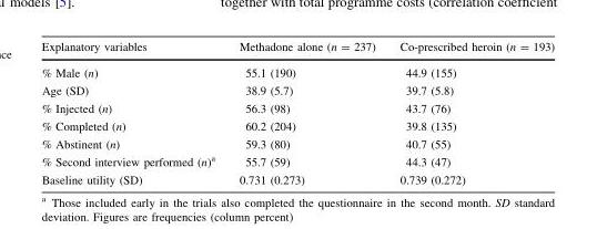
<table><thead><tr><td>Explanatory variables</td><td>Methadone alone (n = 237)</td><td>Co-prescribed heroin (n = 193)</td></tr></thead><tbody><tr><td>% Male (n)</td><td>55.1 (190)</td><td>44.9 (155)</td></tr><tr><td>Age (SD)</td><td>38.9 (5.7)</td><td>39.7 (5.8)</td></tr><tr><td>% Injected (n)</td><td>56.3 (98)</td><td>43.7 (76)</td></tr><tr><td>% Completed (n)</td><td>60.2 (204)</td><td>39.8 (135)</td></tr><tr><td>% Abstinent (n)</td><td>59.3 (80)</td><td>40.7 (55)</td></tr><tr><td>% Second interview performed (n)<sup>a</sup></td><td>55.7 (59)</td><td>44.3 (47)</td></tr><tr><td>Baseline utility (SD)</td><td>0.731 (0.273)</td><td>0.739 (0.272)</td></tr></tbody></table>